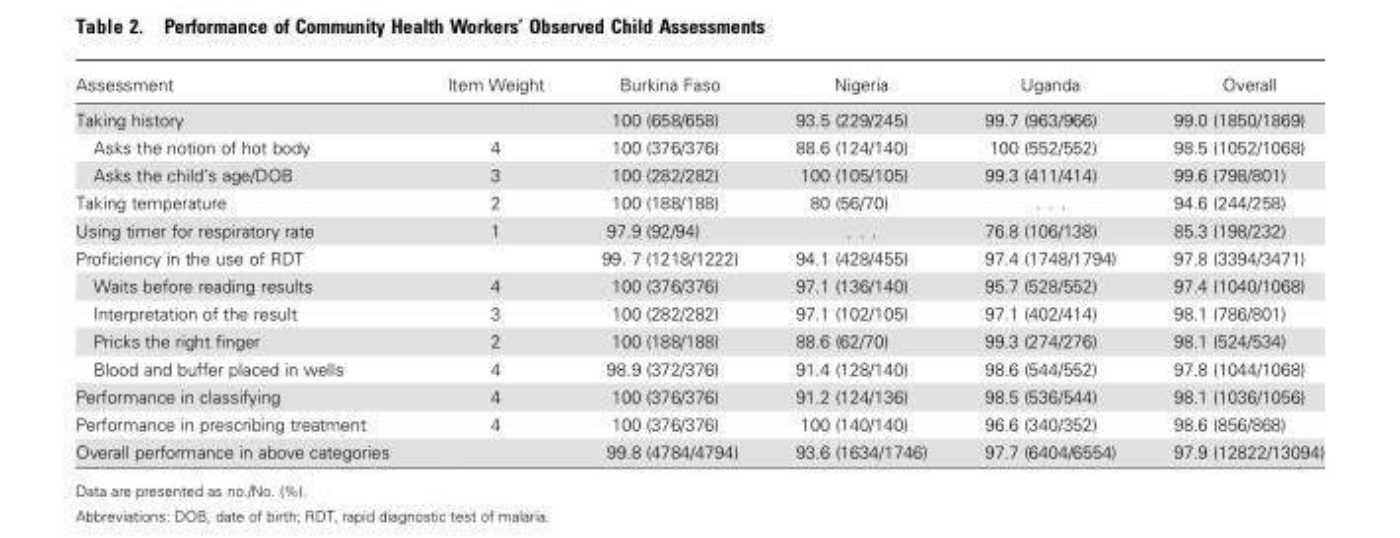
<table><thead><tr><td>Assessment</td><td>Item Weight</td><td>Burkina Faso</td><td>Nigeria</td><td>Uganda</td><td>Overall</td></tr></thead><tbody><tr><td>Taking history</td><td></td><td>100 (658/658)</td><td>93.5 (229/245)</td><td>99.7 (963/966)</td><td>99.0 (1850/1869)</td></tr><tr><td>Asks the notion of hot body</td><td>4</td><td>100 (376/376)</td><td>88.6 (124/140)</td><td>100 (552/552)</td><td>98.5 (1052/1068)</td></tr><tr><td>Asks the child’s age/DOB</td><td>3</td><td>100 (282/282)</td><td>100 (105/105)</td><td>99.3 (411/414)</td><td>99.6 (798/801)</td></tr><tr><td>Taking temperature</td><td>2</td><td>100 (188/188)</td><td>80 (56/70)</td><td>. . .</td><td>94.6 (244/258)</td></tr><tr><td>Using timer for respiratory rate</td><td>1</td><td>97.9 (92/94)</td><td>. . .</td><td>76.8 (106/138)</td><td>85.3 (198/232)</td></tr><tr><td>Proficiency in the use of RDT</td><td></td><td>99. 7 (1218/1222)</td><td>94.1 (428/455)</td><td>97.4 (1748/1794)</td><td>97.8 (3394/3471)</td></tr><tr><td>Waits before reading results</td><td>4</td><td>100 (376/376)</td><td>97.1 (136/140)</td><td>95.7 (528/552)</td><td>97.4 (1040/1068)</td></tr><tr><td>Interpretation of the result</td><td>3</td><td>100 (282/282)</td><td>97.1 (102/105)</td><td>97.1 (402/414)</td><td>98.1 (786/801)</td></tr><tr><td>Pricks the right finger</td><td>2</td><td>100 (188/188)</td><td>88.6 (62/70)</td><td>99.3 (274/276)</td><td>98.1 (524/534)</td></tr><tr><td>Blood and buffer placed in wells</td><td>4</td><td>98.9 (372/376)</td><td>91.4 (128/140)</td><td>98.6 (544/552)</td><td>97.8 (1044/1068)</td></tr><tr><td>Performance in classifying</td><td>4</td><td>100 (376/376)</td><td>91.2 (124/136)</td><td>98.5 (536/544)</td><td>98.1 (1036/1056)</td></tr><tr><td>Performance in prescribing treatment</td><td>4</td><td>100 (376/376)</td><td>100 (140/140)</td><td>96.6 (340/352)</td><td>98.6 (856/868)</td></tr><tr><td>Overall performance in above categories</td><td></td><td>99.8 (4784/4794)</td><td>93.6 (1634/1746)</td><td>97.7 (6404/6554)</td><td>97.9 (12822/13094)</td></tr></tbody></table>